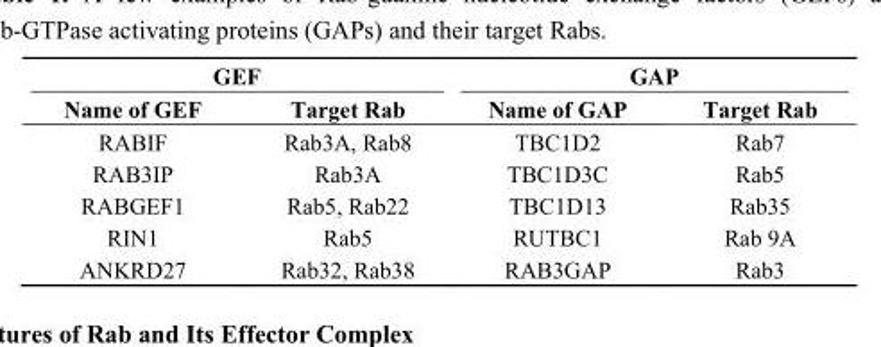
<table><thead><tr><td colspan="2">GEF</td><td colspan="2">GAP</td></tr><tr><td>Name of GEF</td><td>Target Rab</td><td>Name of GAP</td><td>Target Rab</td></tr></thead><tbody><tr><td>RABIF</td><td>Rab3A, Rab8</td><td>TBC1D2</td><td>Rab7</td></tr><tr><td>RAB3IP</td><td>Rab3A</td><td>TBC1D3C</td><td>Rab5</td></tr><tr><td>RABGEF1</td><td>Rab5, Rab22</td><td>TBC1D13</td><td>Rab35</td></tr><tr><td>RIN1</td><td>Rab5</td><td>RUTBC1</td><td>Rab 9A</td></tr><tr><td>ANKRD27</td><td>Rab32, Rab38</td><td>RAB3GAP</td><td>Rab3</td></tr></tbody></table>